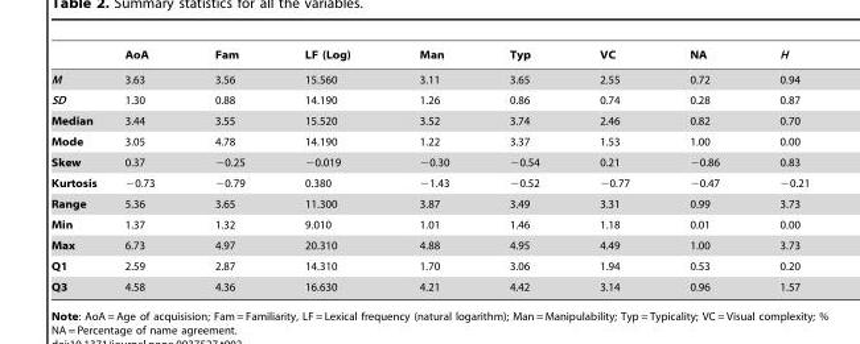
<table><thead><tr><td></td><td>AoA</td><td>Fam</td><td>LF (Log)</td><td>Man</td><td>Typ</td><td>VC</td><td>NA</td><td>H</td></tr></thead><tbody><tr><td>M</td><td>3.63</td><td>3.56</td><td>15.560</td><td>3.11</td><td>3.65</td><td>2.55</td><td>0.72</td><td>0.94</td></tr><tr><td>SD</td><td>1.30</td><td>0.88</td><td>14.190</td><td>1.26</td><td>0.86</td><td>0.74</td><td>0.28</td><td>0.87</td></tr><tr><td>Median</td><td>3.44</td><td>3.55</td><td>15.520</td><td>3.52</td><td>3.74</td><td>2.46</td><td>0.82</td><td>0.70</td></tr><tr><td>Mode</td><td>3.05</td><td>4.78</td><td>14.190</td><td>1.22</td><td>3.37</td><td>1.53</td><td>1.00</td><td>0.00</td></tr><tr><td>Skew</td><td>0.37</td><td>−0.25</td><td>−0.019</td><td>−0.30</td><td>−0.54</td><td>0.21</td><td>−0.86</td><td>0.83</td></tr><tr><td>Kurtosis</td><td>−0.73</td><td>−0.79</td><td>0.380</td><td>−1.43</td><td>−0.52</td><td>−0.77</td><td>−0.47</td><td>−0.21</td></tr><tr><td>Range</td><td>5.36</td><td>3.65</td><td>11.300</td><td>3.87</td><td>3.49</td><td>3.31</td><td>0.99</td><td>3.73</td></tr><tr><td>Min</td><td>1.37</td><td>1.32</td><td>9.010</td><td>1.01</td><td>1.46</td><td>1.18</td><td>0.01</td><td>0.00</td></tr><tr><td>Max</td><td>6.73</td><td>4.97</td><td>20.310</td><td>4.88</td><td>4.95</td><td>4.49</td><td>1.00</td><td>3.73</td></tr><tr><td>Q1</td><td>2.59</td><td>2.87</td><td>14.310</td><td>1.70</td><td>3.06</td><td>1.94</td><td>0.53</td><td>0.20</td></tr><tr><td>Q3</td><td>4.58</td><td>4.36</td><td>16.630</td><td>4.21</td><td>4.42</td><td>3.14</td><td>0.96</td><td>1.57</td></tr></tbody></table>